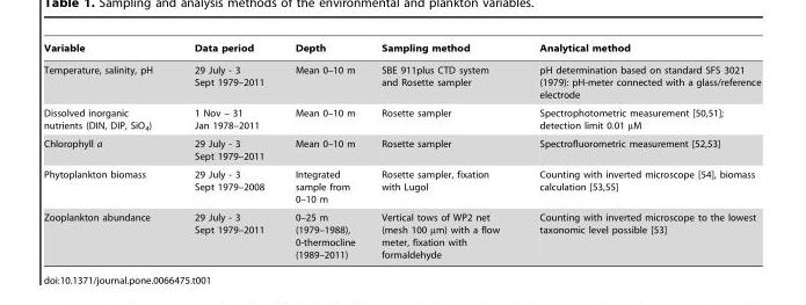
<table><thead><tr><td>Variable</td><td>Data period</td><td>Depth</td><td>Sampling method</td><td>Analytical method</td></tr></thead><tbody><tr><td>Temperature, salinity, pH</td><td>29 July - 3 Sept 1979–2011</td><td>Mean 0–10 m</td><td>SBE 911plus CTD system and Rosette sampler</td><td>pH determination based on standard SFS 3021 (1979): pH-meter connected with a glass/reference electrode</td></tr><tr><td>Dissolved inorganic nutrients (DIN, DIP, SiO<sub>4</sub>)</td><td>1 Nov – 31 Jan 1978–2011</td><td>Mean 0–10 m</td><td>Rosette sampler</td><td>Spectrophotometric measurement [50,51]; detection limit 0.01 mM</td></tr><tr><td>Chlorophyll a</td><td>29 July - 3 Sept 1979–2011</td><td>Mean 0–10 m</td><td>Rosette sampler</td><td>Spectrofluorometric measurement [52,53]</td></tr><tr><td>Phytoplankton biomass</td><td>29 July - 3 Sept 1979–2008</td><td>Integrated sample from 0–10 m</td><td>Rosette sampler, fixation with Lugol</td><td>Counting with inverted microscope [54], biomass calculation [53,55]</td></tr><tr><td>Zooplankton abundance</td><td>29 July - 3 Sept 1979–2011</td><td>0–25 m (1979–1988), 0-thermocline (1989–2011)</td><td>Vertical tows of WP2 net (mesh 100 µm) with a flow meter, fixation with formaldehyde</td><td>Counting with inverted microscope to the lowest taxonomic level possible [53]</td></tr></tbody></table>